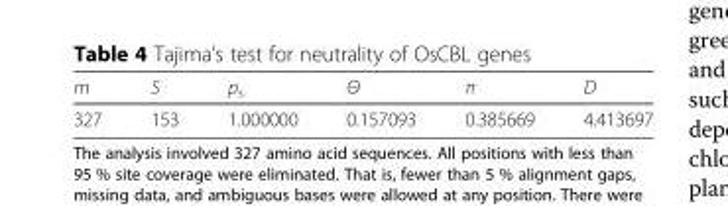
<table><thead><tr><td>m</td><td>S</td><td>p<sub>s</sub></td><td>Θ</td><td>π</td><td>D</td></tr></thead><tbody><tr><td>327</td><td>153</td><td>1.000000</td><td>0.157093</td><td>0.385669</td><td>4.413697</td></tr></tbody></table>